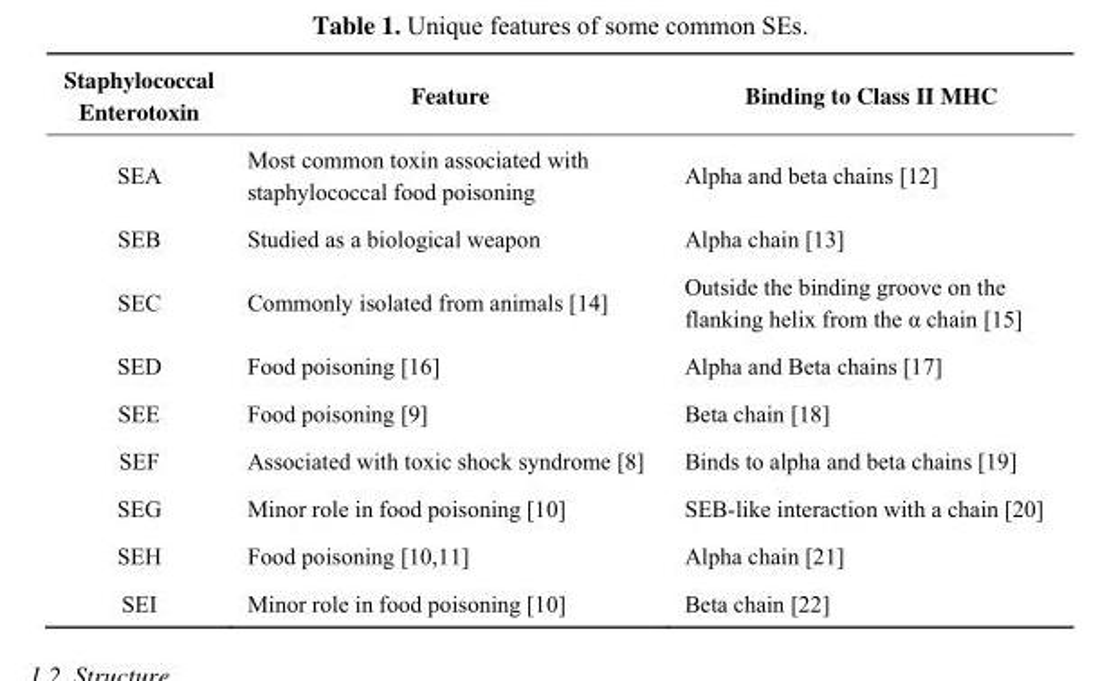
<table><thead><tr><td>Staphylococcal Enterotoxin</td><td>Feature</td><td>Binding to Class II MHC</td></tr></thead><tbody><tr><td>SEA</td><td>Most common toxin associated with staphylococcal food poisoning</td><td>Alpha and beta chains [12]</td></tr><tr><td>SEB</td><td>Studied as a biological weapon</td><td>Alpha chain [13]</td></tr><tr><td>SEC</td><td>Commonly isolated from animals [14]</td><td>Outside the binding groove on the flanking helix from the α chain [15]</td></tr><tr><td>SED</td><td>Food poisoning [16]</td><td>Alpha and Beta chains [17]</td></tr><tr><td>SEE</td><td>Food poisoning [9]</td><td>Beta chain [18]</td></tr><tr><td>SEF</td><td>Associated with toxic shock syndrome [8]</td><td>Binds to alpha and beta chains [19]</td></tr><tr><td>SEG</td><td>Minor role in food poisoning [10]</td><td>SEB-like interaction with a chain [20]</td></tr><tr><td>SEH</td><td>Food poisoning [10,11]</td><td>Alpha chain [21]</td></tr><tr><td>SEI</td><td>Minor role in food poisoning [10]</td><td>Beta chain [22]</td></tr></tbody></table>